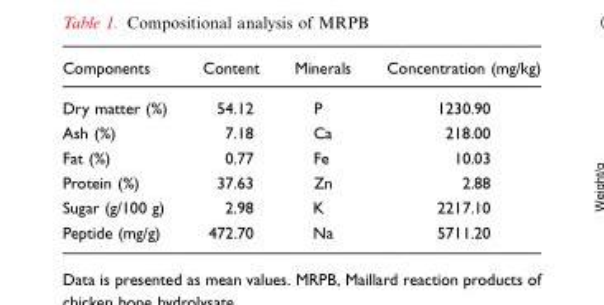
<table><thead><tr><td>Components</td><td>Content</td><td>Minerals</td><td>Concentration (mg/kg)</td></tr></thead><tbody><tr><td>Dry matter (%)</td><td>54.12</td><td>P</td><td>1230.90</td></tr><tr><td>Ash (%)</td><td>7.18</td><td>Ca</td><td>218.00</td></tr><tr><td>Fat (%)</td><td>0.77</td><td>Fe</td><td>10.03</td></tr><tr><td>Protein (%)</td><td>37.63</td><td>Zn</td><td>2.88</td></tr><tr><td>Sugar (g/100 g)</td><td>2.98</td><td>K</td><td>2217.10</td></tr><tr><td>Peptide (mg/g)</td><td>472.70</td><td>Na</td><td>5711.20</td></tr></tbody></table>